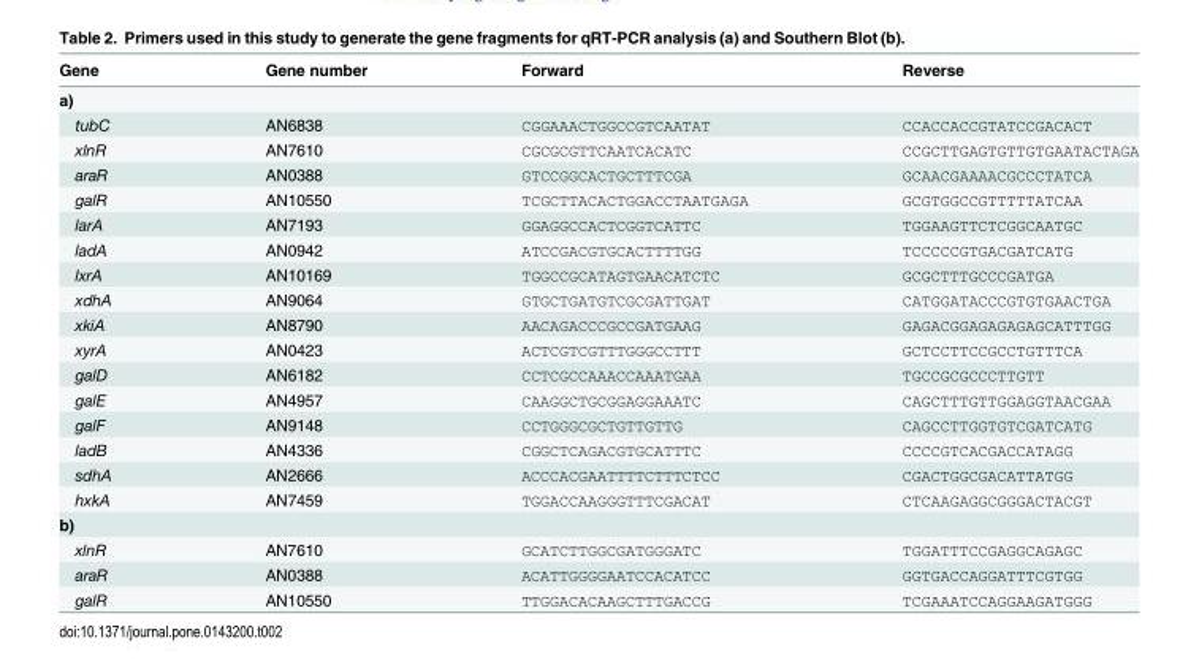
<table><thead><tr><td>Gene</td><td>Gene number</td><td>Forward</td><td>Reverse</td></tr></thead><tbody><tr><td colspan="4">a)</td></tr><tr><td>tubC</td><td>AN6838</td><td>CGGAAACTGGCCGTCAATAT</td><td>CCACCACCGTATCCGACACT</td></tr><tr><td>xlnR</td><td>AN7610</td><td>CGCGCGTTCAATCACATC</td><td>CCGCTTGAGTGTTGTGAATACTAGA</td></tr><tr><td>araR</td><td>AN0388</td><td>GTCCGGCACTGCTTTCGA</td><td>GCAACGAAAACGCCCTATCA</td></tr><tr><td>galR</td><td>AN10550</td><td>TCGCTTACACTGGACCTAATGAGA</td><td>GCGTGGCCGTTTTTATCAA</td></tr><tr><td>larA</td><td>AN7193</td><td>GGAGGCCACTCGGTCATTC</td><td>TGGAAGTTCTCGGCAATGC</td></tr><tr><td>ladA</td><td>AN0942</td><td>ATCCGACGTGCACTTTTGG</td><td>TCCCCCGTGACGATCATG</td></tr><tr><td>lxrA</td><td>AN10169</td><td>TGGCCGCATAGTGAACATCTC</td><td>GCGCTTTGCCCGATGA</td></tr><tr><td>xdhA</td><td>AN9064</td><td>GTGCTGATGTCGCGATTGAT</td><td>CATGGATACCCGTGTGAACTGA</td></tr><tr><td>xkiA</td><td>AN8790</td><td>AACAGACCCGCCGATGAAG</td><td>GAGACGGAGAGAGAGCATTTGG</td></tr><tr><td>xyrA</td><td>AN0423</td><td>ACTCGTCGTTTGGGCCTTT</td><td>GCTCCTTCCGCCTGTTTCA</td></tr><tr><td>galD</td><td>AN6182</td><td>CCTCGCCAAACCAAATGAA</td><td>TGCCGCGCCCTTGTT</td></tr><tr><td>galE</td><td>AN4957</td><td>CAAGGCTGCGGAGGAAATC</td><td>CAGCTTTGTTGGAGGTAACGAA</td></tr><tr><td>galF</td><td>AN9148</td><td>CCTGGGCGCTGTTGTTG</td><td>CAGCCTTGGTGTCGATCATG</td></tr><tr><td>ladB</td><td>AN4336</td><td>CGGCTCAGACGTGCATTTC</td><td>CCCCGTCACGACCATAGG</td></tr><tr><td>sdhA</td><td>AN2666</td><td>ACCCACGAATTTTCTTTCTCC</td><td>CGACTGGCGACATTATGG</td></tr><tr><td>hxkA</td><td>AN7459</td><td>TGGACCAAGGGTTTCGACAT</td><td>CTCAAGAGGCGGGACTACGT</td></tr><tr><td colspan="4">b)</td></tr><tr><td>xlnR</td><td>AN7610</td><td>GCATCTTGGCGATGGGATC</td><td>TGGATTTCCGAGGCAGAGC</td></tr><tr><td>araR</td><td>AN0388</td><td>ACATTGGGGAATCCACATCC</td><td>GGTGACCAGGATTTCGTGG</td></tr><tr><td>galR</td><td>AN10550</td><td>TTGGACACAAGCTTTGACCG</td><td>TCGAAATCCAGGAAGATGGG</td></tr></tbody></table>